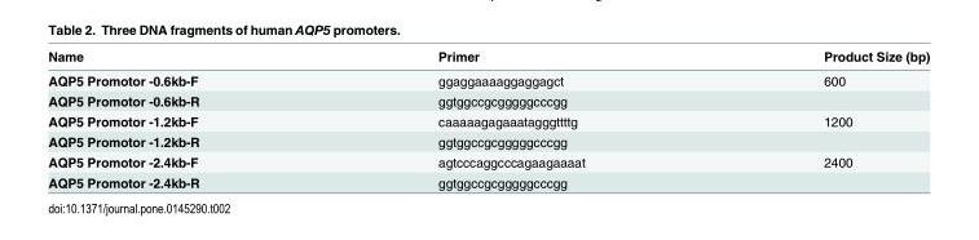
<table><thead><tr><td>Name</td><td>Primer</td><td>Product Size (bp)</td></tr></thead><tbody><tr><td>AQP5 Promotor -0.6kb-F</td><td>ggaggaaaaggaggagct</td><td>600</td></tr><tr><td>AQP5 Promotor -0.6kb-R</td><td>ggtggccgcgggggcccgg</td><td></td></tr><tr><td>AQP5 Promotor -1.2kb-F</td><td>caaaaagagaaatagggttttg</td><td>1200</td></tr><tr><td>AQP5 Promotor -1.2kb-R</td><td>ggtggccgcgggggcccgg</td><td></td></tr><tr><td>AQP5 Promotor -2.4kb-F</td><td>agtcccaggcccagaagaaaat</td><td>2400</td></tr><tr><td>AQP5 Promotor -2.4kb-R</td><td>ggtggccgcgggggcccgg</td><td></td></tr></tbody></table>